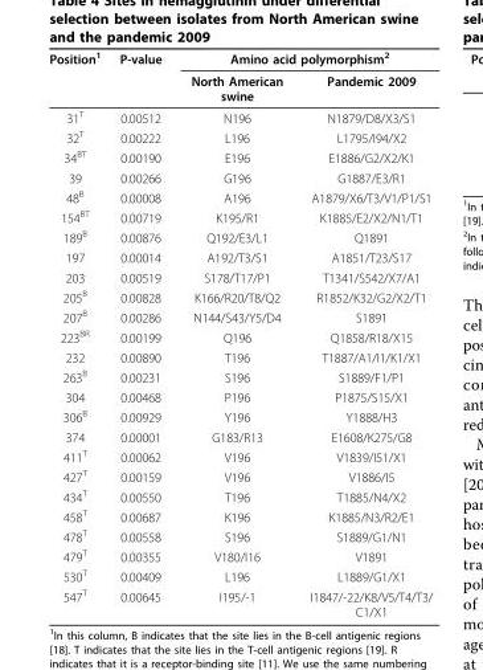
<table><thead><tr><td rowspan="2">Position<sup>1</sup></td><td rowspan="2">P-value</td><td colspan="2">Amino acid polymorphism<sup>2</sup></td></tr><tr><td>North American swine</td><td>Pandemic 2009</td></tr></thead><tbody><tr><td>31<sup>T</sup></td><td>0.00512</td><td>N196</td><td>N1879/D8/X3/S1</td></tr><tr><td>32<sup>T</sup></td><td>0.00222</td><td>L196</td><td>L1795/I94/X2</td></tr><tr><td>34<sup>BT</sup></td><td>0.00190</td><td>E196</td><td>E1886/G2/X2/K1</td></tr><tr><td>39</td><td>0.00266</td><td>G196</td><td>G1887/E3/R1</td></tr><tr><td>48<sup>B</sup></td><td>0.00008</td><td>A196</td><td>A1879/X6/T3/V1/P1/S1</td></tr><tr><td>154<sup>BT</sup></td><td>0.00719</td><td>K195/R1</td><td>K1885/E2/X2/N1/T1</td></tr><tr><td>189<sup>B</sup></td><td>0.00876</td><td>Q192/E3/L1</td><td>Q1891</td></tr><tr><td>197</td><td>0.00014</td><td>A192/T3/S1</td><td>A1851/T23/S17</td></tr><tr><td>203</td><td>0.00519</td><td>S178/T17/P1</td><td>T1341/S542/X7/A1</td></tr><tr><td>205<sup>B</sup></td><td>0.00828</td><td>K166/R20/T8/Q2</td><td>R1852/K32/G2/X2/T1</td></tr><tr><td>207<sup>B</sup></td><td>0.00286</td><td>N144/S43/Y5/D4</td><td>S1891</td></tr><tr><td>223<sup>BR</sup></td><td>0.00199</td><td>Q196</td><td>Q1858/R18/X15</td></tr><tr><td>232</td><td>0.00890</td><td>T196</td><td>T1887/A1/I1/K1/X1</td></tr><tr><td>263<sup>B</sup></td><td>0.00231</td><td>S196</td><td>S1889/F1/P1</td></tr><tr><td>304</td><td>0.00468</td><td>P196</td><td>P1875/S15/X1</td></tr><tr><td>306<sup>B</sup></td><td>0.00929</td><td>Y196</td><td>Y1888/H3</td></tr><tr><td>374</td><td>0.00001</td><td>G183/R13</td><td>E1608/K275/G8</td></tr><tr><td>411<sup>T</sup></td><td>0.00062</td><td>V196</td><td>V1839/I51/X1</td></tr><tr><td>427<sup>T</sup></td><td>0.00159</td><td>V196</td><td>V1886/I5</td></tr><tr><td>434<sup>T</sup></td><td>0.00550</td><td>T196</td><td>T1885/N4/X2</td></tr><tr><td>458<sup>T</sup></td><td>0.00687</td><td>K196</td><td>K1885/N3/R2/E1</td></tr><tr><td>478<sup>T</sup></td><td>0.00558</td><td>S196</td><td>S1889/G1/N1</td></tr><tr><td>479<sup>T</sup></td><td>0.00355</td><td>V180/I16</td><td>V1891</td></tr><tr><td>530<sup>T</sup></td><td>0.00409</td><td>L196</td><td>L1889/G1/X1</td></tr><tr><td>547<sup>T</sup></td><td>0.00645</td><td>I195/-1</td><td>I1847/-22/K8/V5/T4/T3/ C1/X1</td></tr></tbody></table>